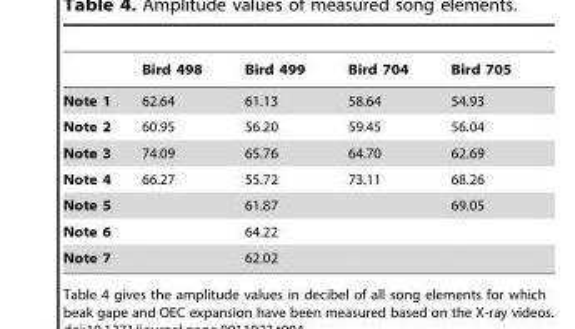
<table><thead><tr><td></td><td>Bird 498</td><td>Bird 499</td><td>Bird 704</td><td>Bird 705</td></tr></thead><tbody><tr><td>Note 1</td><td>62.64</td><td>61.13</td><td>58.64</td><td>54.93</td></tr><tr><td>Note 2</td><td>60.95</td><td>56.20</td><td>59.45</td><td>56.04</td></tr><tr><td>Note 3</td><td>74.09</td><td>65.76</td><td>64.70</td><td>62.69</td></tr><tr><td>Note 4</td><td>66.27</td><td>55.72</td><td>73.11</td><td>68.26</td></tr><tr><td>Note 5</td><td></td><td>61.87</td><td></td><td>69.05</td></tr><tr><td>Note 6</td><td></td><td>64.22</td><td></td><td></td></tr><tr><td>Note 7</td><td></td><td>62.02</td><td></td><td></td></tr></tbody></table>